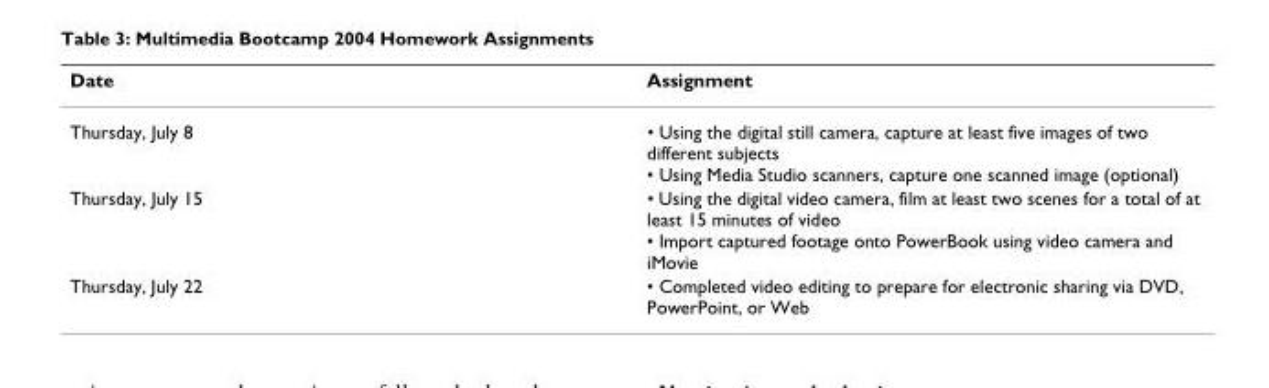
<table><thead><tr><td>Date</td><td>Assignment</td></tr></thead><tbody><tr><td>Thursday, July 8</td><td>• Using the digital still camera, capture at least five images of two different subjects • Using Media Studio scanners, capture one scanned image (optional)</td></tr><tr><td>Thursday, July 15</td><td>• Using the digital video camera, film at least two scenes for a total of at least 15 minutes of video • Import captured footage onto PowerBook using video camera and iMovie</td></tr><tr><td>Thursday, July 22</td><td>• Completed video editing to prepare for electronic sharing via DVD, PowerPoint, or Web</td></tr></tbody></table>